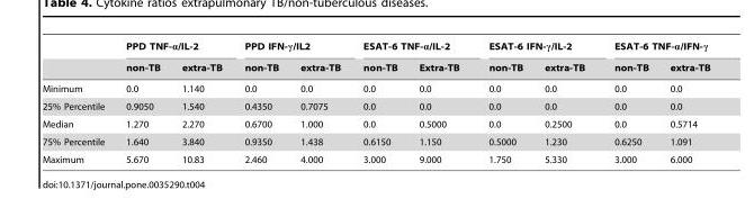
<table><thead><tr><td rowspan="2"></td><td colspan="2">PPD TNF-α/IL-2</td><td colspan="2">PPD IFN-γ/IL2</td><td colspan="2">ESAT-6 TNF-α/IL-2</td><td colspan="2">ESAT-6 IFN-γ/IL-2</td><td colspan="2">ESAT-6 TNF-α/IFN-γ</td></tr><tr><td>non-TB</td><td>extra-TB</td><td>non-TB</td><td>extra-TB</td><td>non-TB</td><td>Extra-TB</td><td>non-TB</td><td>extra-TB</td><td>non-TB</td><td>extra-TB</td></tr></thead><tbody><tr><td>Minimum</td><td>0.0</td><td>1.140</td><td>0.0</td><td>0.0</td><td>0.0</td><td>0.0</td><td>0.0</td><td>0.0</td><td>0.0</td><td>0.0</td></tr><tr><td>25% Percentile</td><td>0.9050</td><td>1.540</td><td>0.4350</td><td>0.7075</td><td>0.0</td><td>0.0</td><td>0.0</td><td>0.0</td><td>0.0</td><td>0.0</td></tr><tr><td>Median</td><td>1.270</td><td>2.270</td><td>0.6700</td><td>1.000</td><td>0.0</td><td>0.5000</td><td>0.0</td><td>0.2500</td><td>0.0</td><td>0.5714</td></tr><tr><td>75% Percentile</td><td>1.640</td><td>3.840</td><td>0.9350</td><td>1.438</td><td>0.6150</td><td>1.150</td><td>0.5000</td><td>1.230</td><td>0.6250</td><td>1.091</td></tr><tr><td>Maximum</td><td>5.670</td><td>10.83</td><td>2.460</td><td>4.000</td><td>3.000</td><td>9.000</td><td>1.750</td><td>5.330</td><td>3.000</td><td>6.000</td></tr></tbody></table>